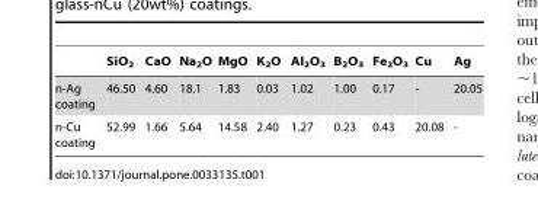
<table><thead><tr><td></td><td>SiO<sub>2</sub></td><td>CaO</td><td>Na<sub>2</sub>O</td><td>MgO</td><td>K<sub>2</sub>O</td><td>Al<sub>2</sub>O<sub>3</sub></td><td>B<sub>2</sub>O<sub>3</sub></td><td>Fe<sub>2</sub>O<sub>3</sub></td><td>Cu</td><td>Ag</td></tr></thead><tbody><tr><td>n-Ag coating</td><td>46.50</td><td>4.60</td><td>18.1</td><td>1.83</td><td>0.03</td><td>1.02</td><td>1.00</td><td>0.17</td><td>-</td><td>20.05</td></tr><tr><td>n-Cu coating</td><td>52.99</td><td>1.66</td><td>5.64</td><td>14.58</td><td>2.40</td><td>1.27</td><td>0.23</td><td>0.43</td><td>20.08</td><td>-</td></tr></tbody></table>